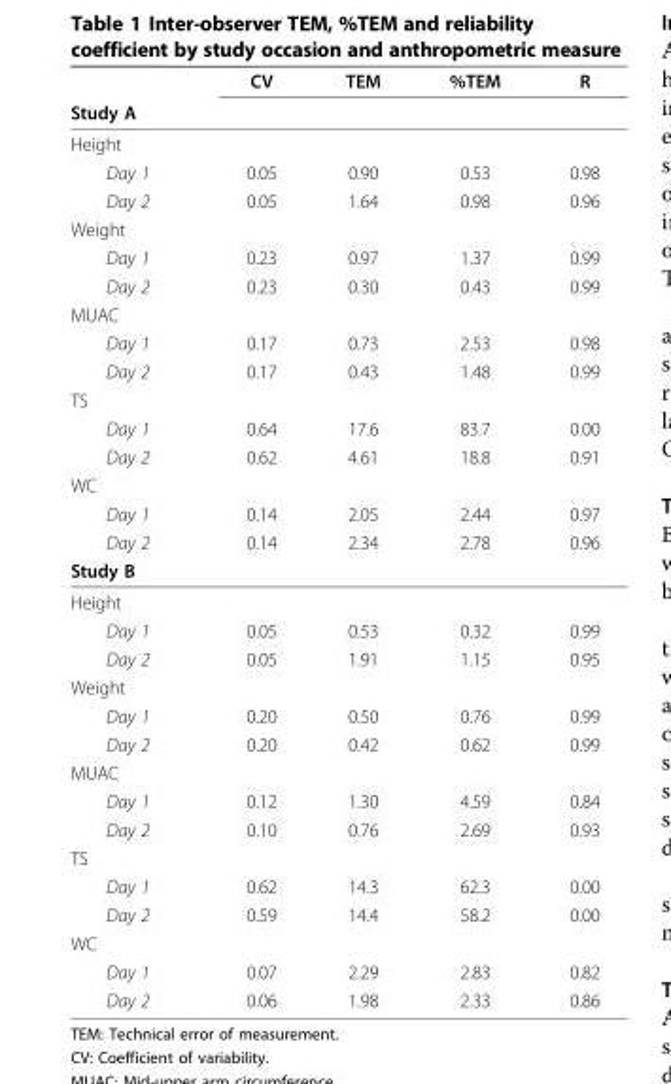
<table><thead><tr><td rowspan="2">Study A</td><td rowspan="2">CV</td><td rowspan="2">TEM</td><td rowspan="2">%TEM</td><td rowspan="2">R</td></tr><tr></tr></thead><tbody><tr><td colspan="5">Height</td></tr><tr><td>Day 1</td><td>0.05</td><td>0.90</td><td>0.53</td><td>0.98</td></tr><tr><td>Day 2</td><td>0.05</td><td>1.64</td><td>0.98</td><td>0.96</td></tr><tr><td colspan="5">Weight</td></tr><tr><td>Day 1</td><td>0.23</td><td>0.97</td><td>1.37</td><td>0.99</td></tr><tr><td>Day 2</td><td>0.23</td><td>0.30</td><td>0.43</td><td>0.99</td></tr><tr><td colspan="5">MUAC</td></tr><tr><td>Day 1</td><td>0.17</td><td>0.73</td><td>2.53</td><td>0.98</td></tr><tr><td>Day 2</td><td>0.17</td><td>0.43</td><td>1.48</td><td>0.99</td></tr><tr><td colspan="5">TS</td></tr><tr><td>Day 1</td><td>0.64</td><td>17.6</td><td>83.7</td><td>0.00</td></tr><tr><td>Day 2</td><td>0.62</td><td>4.61</td><td>18.8</td><td>0.91</td></tr><tr><td colspan="5">WC</td></tr><tr><td>Day 1</td><td>0.14</td><td>2.05</td><td>2.44</td><td>0.97</td></tr><tr><td>Day 2</td><td>0.14</td><td>2.34</td><td>2.78</td><td>0.96</td></tr><tr><td colspan="5">Study B</td></tr><tr><td colspan="5">Height</td></tr><tr><td>Day 1</td><td>0.05</td><td>0.53</td><td>0.32</td><td>0.99</td></tr><tr><td>Day 2</td><td>0.05</td><td>1.91</td><td>1.15</td><td>0.95</td></tr><tr><td colspan="5">Weight</td></tr><tr><td>Day 1</td><td>0.20</td><td>0.50</td><td>0.76</td><td>0.99</td></tr><tr><td>Day 2</td><td>0.20</td><td>0.42</td><td>0.62</td><td>0.99</td></tr><tr><td colspan="5">MUAC</td></tr><tr><td>Day 1</td><td>0.12</td><td>1.30</td><td>4.59</td><td>0.84</td></tr><tr><td>Day 2</td><td>0.10</td><td>0.76</td><td>2.69</td><td>0.93</td></tr><tr><td colspan="5">TS</td></tr><tr><td>Day 1</td><td>0.62</td><td>14.3</td><td>62.3</td><td>0.00</td></tr><tr><td>Day 2</td><td>0.59</td><td>14.4</td><td>58.2</td><td>0.00</td></tr><tr><td colspan="5">WC</td></tr><tr><td>Day 1</td><td>0.07</td><td>2.29</td><td>2.83</td><td>0.82</td></tr><tr><td>Day 2</td><td>0.06</td><td>1.98</td><td>2.33</td><td>0.86</td></tr></tbody></table>